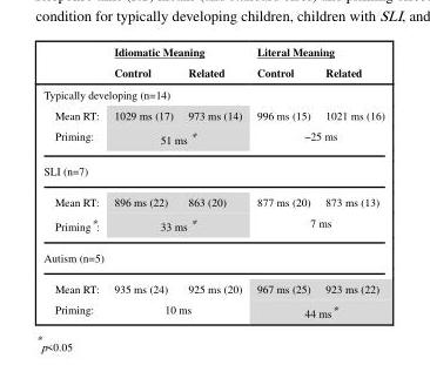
<table><thead><tr><td rowspan="2"></td><td colspan="2">Idiomatic Meaning</td><td colspan="2">Literal Meaning</td></tr><tr><td>Control</td><td>Related</td><td>Control</td><td>Related</td></tr></thead><tbody><tr><td colspan="5">Typically developing (n=14)</td></tr><tr><td>Mean RT:</td><td>1029 ms (17)</td><td>973 ms (14)</td><td>996 ms (15)</td><td>1021 ms (16)</td></tr><tr><td>Priming:</td><td colspan="2">51 ms *</td><td colspan="2">−25 ms</td></tr><tr><td colspan="5">SLI (n=7)</td></tr><tr><td>Mean RT:</td><td>896 ms (22)</td><td>863 (20)</td><td>877 ms (20)</td><td>873 ms (13)</td></tr><tr><td>Priming*:</td><td colspan="2">33 ms *</td><td colspan="2">7 ms</td></tr><tr><td colspan="5">Autism (n=5)</td></tr><tr><td>Mean RT:</td><td>935 ms (24)</td><td>925 ms (20)</td><td>967 ms (25)</td><td>923 ms (22)</td></tr><tr><td>Priming:</td><td colspan="2">10 ms</td><td colspan="2">44 ms*</td></tr></tbody></table>